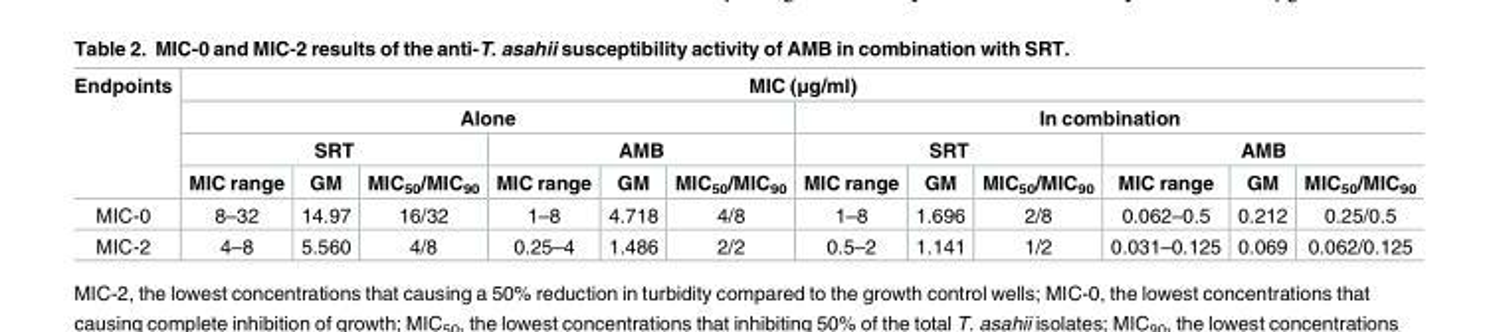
<table><thead><tr><td rowspan="4">Endpoints</td><td colspan="12">MIC (μg/ml)</td></tr><tr><td colspan="6">Alone</td><td colspan="6">In combination</td></tr><tr><td colspan="3">SRT</td><td colspan="3">AMB</td><td colspan="3">SRT</td><td colspan="3">AMB</td></tr><tr><td>MIC range</td><td>GM</td><td>MIC<sub>50</sub>/MIC<sub>90</sub></td><td>MIC range</td><td>GM</td><td>MIC<sub>50</sub>/MIC<sub>90</sub></td><td>MIC range</td><td>GM</td><td>MIC<sub>50</sub>/MIC<sub>90</sub></td><td>MIC range</td><td>GM</td><td>MIC<sub>50</sub>/MIC<sub>90</sub></td></tr></thead><tbody><tr><td>MIC-0</td><td>8–32</td><td>14.97</td><td>16/32</td><td>1–8</td><td>4.718</td><td>4/8</td><td>1–8</td><td>1.696</td><td>2/8</td><td>0.062–0.5</td><td>0.212</td><td>0.25/0.5</td></tr><tr><td>MIC-2</td><td>4–8</td><td>5.560</td><td>4/8</td><td>0.25–4</td><td>1.486</td><td>2/2</td><td>0.5–2</td><td>1.141</td><td>1/2</td><td>0.031–0.125</td><td>0.069</td><td>0.062/0.125</td></tr></tbody></table>